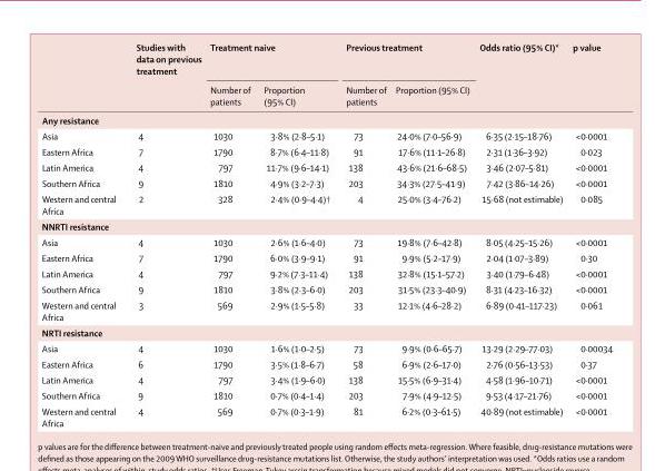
<table><thead><tr><td rowspan="2"></td><td rowspan="2">Studies with data on previous treatment</td><td colspan="2">Treatment naive</td><td colspan="2">Previous treatment</td><td rowspan="2">Odds ratio (95% CI)*</td><td rowspan="2">p value</td></tr><tr><td>Number of patients</td><td>Proportion (95% CI)</td><td>Number of patients</td><td>Proportion (95% CI)</td></tr></thead><tbody><tr><td colspan="8">Any resistance</td></tr><tr><td>Asia</td><td>4</td><td>1030</td><td>3·8% (2·8–5·1)</td><td>73</td><td>24·0% (7·0–56·9)</td><td>6·35 (2·15–18·76)</td><td>&lt;0·0001</td></tr><tr><td>Eastern Africa</td><td>7</td><td>1790</td><td>8·7% (6·4–11·8)</td><td>91</td><td>17·6% (11·1–26·8)</td><td>2·31 (1·36–3·92)</td><td>0·023</td></tr><tr><td>Latin America</td><td>4</td><td>797</td><td>11·7% (9·6–14·1)</td><td>138</td><td>43·6% (21·6–68·5)</td><td>3·46 (2·07–5·81)</td><td>&lt;0·0001</td></tr><tr><td>Southern Africa</td><td>9</td><td>1810</td><td>4·9% (3·2–7·3)</td><td>203</td><td>34·3% (27·5–41·9)</td><td>7·42 (3·86–14·26)</td><td>&lt;0·0001</td></tr><tr><td>Western and central Africa</td><td>2</td><td>328</td><td>2·4% (0·9–4·4)†</td><td>4</td><td>25·0% (3·4–76·2)</td><td>15·68 (not estimable)</td><td>0·085</td></tr><tr><td colspan="8">NNRTI resistance</td></tr><tr><td>Asia</td><td>4</td><td>1030</td><td>2·6% (1·6–4·0)</td><td>73</td><td>19·8% (7·6–42·8)</td><td>8·05 (4·25–15·26)</td><td>&lt;0·0001</td></tr><tr><td>Eastern Africa</td><td>7</td><td>1790</td><td>6·0% (3·9–9·1)</td><td>91</td><td>9·9% (5·2–17·9)</td><td>2·04 (1·07–3·89)</td><td>0·30</td></tr><tr><td>Latin America</td><td>4</td><td>797</td><td>9·2% (7·3–11·4)</td><td>138</td><td>32·8% (15·1–57·2)</td><td>3·40 (1·79–6·48)</td><td>&lt;0·0001</td></tr><tr><td>Southern Africa</td><td>9</td><td>1810</td><td>3·8% (2·3–6·0)</td><td>203</td><td>31·5% (23·3–40·9)</td><td>8·31 (4·23–16·32)</td><td>&lt;0·0001</td></tr><tr><td>Western and central Africa</td><td>3</td><td>569</td><td>2·9% (1·5–5·8)</td><td>33</td><td>12·1% (4·6–28·2)</td><td>6·89 (0·41–117·23)</td><td>0·061</td></tr><tr><td colspan="8">NRTI resistance</td></tr><tr><td>Asia</td><td>4</td><td>1030</td><td>1·6% (1·0–2·5)</td><td>73</td><td>9·9% (0·6–65·7)</td><td>13·29 (2·29–77·03)</td><td>0·00034</td></tr><tr><td>Eastern Africa</td><td>6</td><td>1790</td><td>3·5% (1·8–6·7)</td><td>58</td><td>6·9% (2·6–17·0)</td><td>2·76 (0·56–13·53)</td><td>0·37</td></tr><tr><td>Latin America</td><td>4</td><td>797</td><td>3·4% (1·9–6·0)</td><td>138</td><td>15·5% (6·9–31·4)</td><td>4·58 (1·96–10·71)</td><td>&lt;0·0001</td></tr><tr><td>Southern Africa</td><td>9</td><td>1810</td><td>0·7% (0·4–1·4)</td><td>203</td><td>7·9% (4·9–12·5)</td><td>9·53 (4·17–21·76)</td><td>&lt;0·0001</td></tr><tr><td>Western and central Africa</td><td>4</td><td>569</td><td>0·7% (0·3–1·9)</td><td>81</td><td>6·2% (0·3–61·5)</td><td>40·89 (not estimable)</td><td>&lt;0·0001</td></tr></tbody></table>